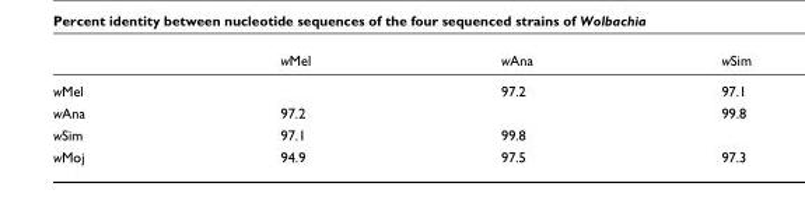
<table><thead><tr><td></td><td>wMel</td><td>wAna</td><td>wSim</td></tr></thead><tbody><tr><td>wMel</td><td></td><td>97.2</td><td>97.1</td></tr><tr><td>wAna</td><td>97.2</td><td></td><td>99.8</td></tr><tr><td>wSim</td><td>97.1</td><td>99.8</td><td></td></tr><tr><td>wMoj</td><td>94.9</td><td>97.5</td><td>97.3</td></tr></tbody></table>